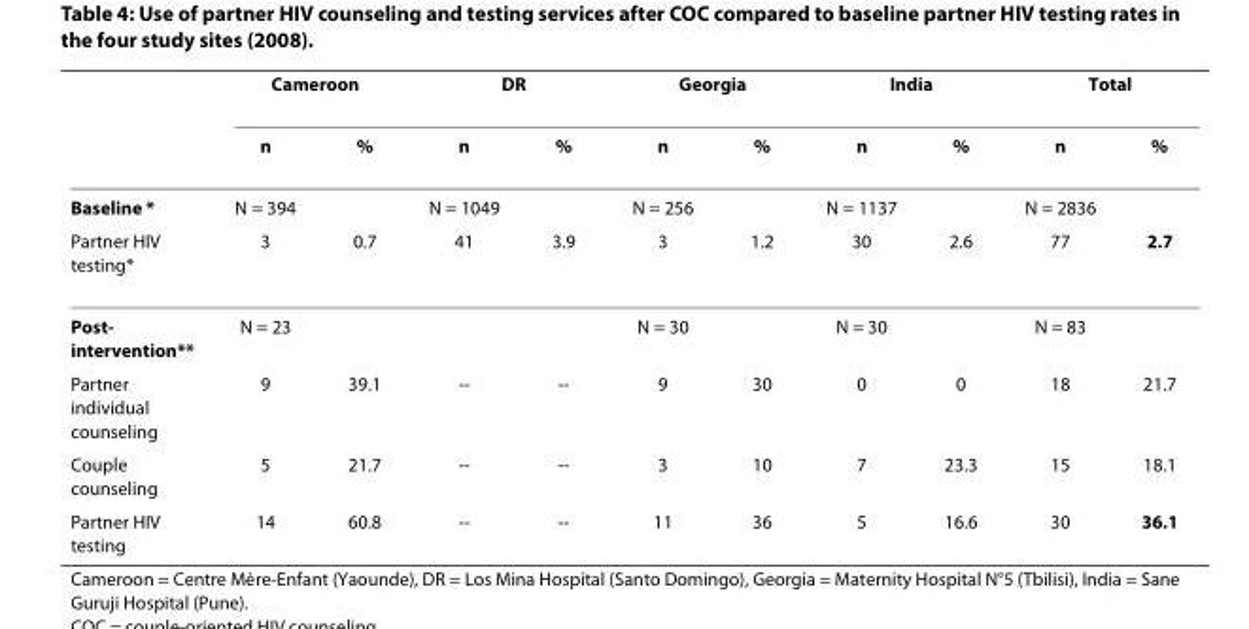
<table><thead><tr><td rowspan="2"></td><td colspan="2">Cameroon</td><td colspan="2">DR</td><td colspan="2">Georgia</td><td colspan="2">India</td><td colspan="2">Total</td></tr><tr><td>n</td><td>%</td><td>n</td><td>%</td><td>n</td><td>%</td><td>n</td><td>%</td><td>n</td><td>%</td></tr></thead><tbody><tr><td>Baseline *</td><td>N = 394</td><td></td><td>N = 1049</td><td></td><td>N = 256</td><td></td><td>N = 1137</td><td></td><td>N = 2836</td><td></td></tr><tr><td>Partner HIV testing*</td><td>3</td><td>0.7</td><td>41</td><td>3.9</td><td>3</td><td>1.2</td><td>30</td><td>2.6</td><td>77</td><td>2.7</td></tr><tr><td>Post- intervention**</td><td>N = 23</td><td></td><td></td><td></td><td>N = 30</td><td></td><td>N = 30</td><td></td><td>N = 83</td><td></td></tr><tr><td>Partner individual counseling</td><td>9</td><td>39.1</td><td>--</td><td>--</td><td>9</td><td>30</td><td>0</td><td>0</td><td>18</td><td>21.7</td></tr><tr><td>Couple counseling</td><td>5</td><td>21.7</td><td>--</td><td>--</td><td>3</td><td>10</td><td>7</td><td>23.3</td><td>15</td><td>18.1</td></tr><tr><td>Partner HIV testing</td><td>14</td><td>60.8</td><td>--</td><td>--</td><td>11</td><td>36</td><td>5</td><td>16.6</td><td>30</td><td>36.1</td></tr></tbody></table>